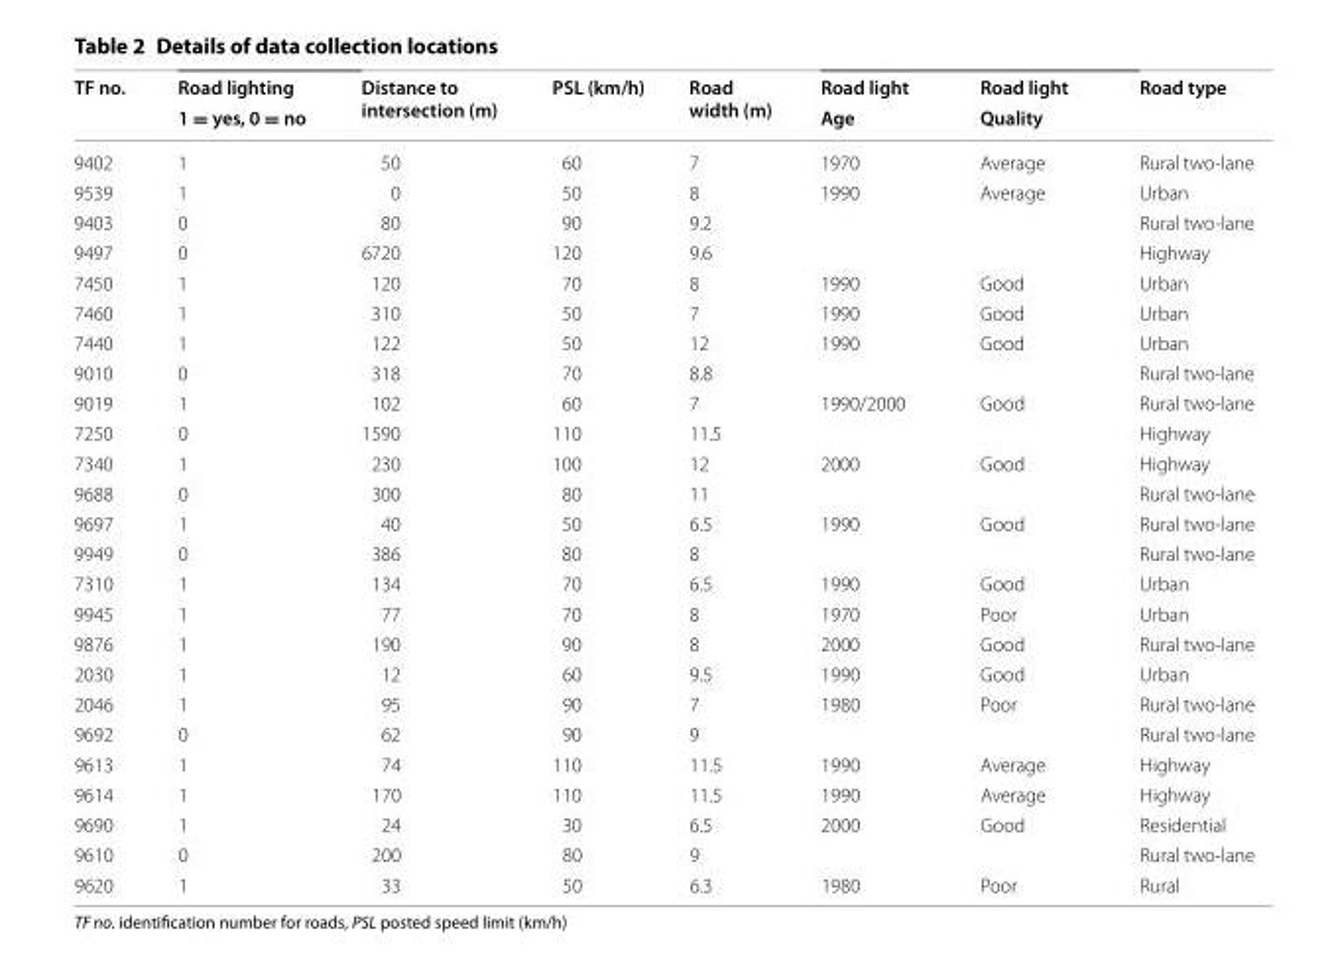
<table><thead><tr><td rowspan="2">TF no.</td><td rowspan="2">Road lighting 1 = yes, 0 = no</td><td rowspan="2">Distance to intersection (m)</td><td rowspan="2">PSL (km/h)</td><td rowspan="2">Road width (m)</td><td rowspan="2">Road light Age</td><td rowspan="2">Road light Quality</td><td rowspan="2">Road type</td></tr><tr></tr></thead><tbody><tr><td>9402</td><td>1</td><td>50</td><td>60</td><td>7</td><td>1970</td><td>Average</td><td>Rural two-lane</td></tr><tr><td>9539</td><td>1</td><td>0</td><td>50</td><td>8</td><td>1990</td><td>Average</td><td>Urban</td></tr><tr><td>9403</td><td>0</td><td>80</td><td>90</td><td>9.2</td><td></td><td></td><td>Rural two-lane</td></tr><tr><td>9497</td><td>0</td><td>6720</td><td>120</td><td>9.6</td><td></td><td></td><td>Highway</td></tr><tr><td>7450</td><td>1</td><td>120</td><td>70</td><td>8</td><td>1990</td><td>Good</td><td>Urban</td></tr><tr><td>7460</td><td>1</td><td>310</td><td>50</td><td>7</td><td>1990</td><td>Good</td><td>Urban</td></tr><tr><td>7440</td><td>1</td><td>122</td><td>50</td><td>12</td><td>1990</td><td>Good</td><td>Urban</td></tr><tr><td>9010</td><td>0</td><td>318</td><td>70</td><td>8.8</td><td></td><td></td><td>Rural two-lane</td></tr><tr><td>9019</td><td>1</td><td>102</td><td>60</td><td>7</td><td>1990/2000</td><td>Good</td><td>Rural two-lane</td></tr><tr><td>7250</td><td>0</td><td>1590</td><td>110</td><td>11.5</td><td></td><td></td><td>Highway</td></tr><tr><td>7340</td><td>1</td><td>230</td><td>100</td><td>12</td><td>2000</td><td>Good</td><td>Highway</td></tr><tr><td>9688</td><td>0</td><td>300</td><td>80</td><td>11</td><td></td><td></td><td>Rural two-lane</td></tr><tr><td>9697</td><td>1</td><td>40</td><td>50</td><td>6.5</td><td>1990</td><td>Good</td><td>Rural two-lane</td></tr><tr><td>9949</td><td>0</td><td>386</td><td>80</td><td>8</td><td></td><td></td><td>Rural two-lane</td></tr><tr><td>7310</td><td>1</td><td>134</td><td>70</td><td>6.5</td><td>1990</td><td>Good</td><td>Urban</td></tr><tr><td>9945</td><td>1</td><td>77</td><td>70</td><td>8</td><td>1970</td><td>Poor</td><td>Urban</td></tr><tr><td>9876</td><td>1</td><td>190</td><td>90</td><td>8</td><td>2000</td><td>Good</td><td>Rural two-lane</td></tr><tr><td>2030</td><td>1</td><td>12</td><td>60</td><td>9.5</td><td>1990</td><td>Good</td><td>Urban</td></tr><tr><td>2046</td><td>1</td><td>95</td><td>90</td><td>7</td><td>1980</td><td>Poor</td><td>Rural two-lane</td></tr><tr><td>9692</td><td>0</td><td>62</td><td>90</td><td>9</td><td></td><td></td><td>Rural two-lane</td></tr><tr><td>9613</td><td>1</td><td>74</td><td>110</td><td>11.5</td><td>1990</td><td>Average</td><td>Highway</td></tr><tr><td>9614</td><td>1</td><td>170</td><td>110</td><td>11.5</td><td>1990</td><td>Average</td><td>Highway</td></tr><tr><td>9690</td><td>1</td><td>24</td><td>30</td><td>6.5</td><td>2000</td><td>Good</td><td>Residential</td></tr><tr><td>9610</td><td>0</td><td>200</td><td>80</td><td>9</td><td></td><td></td><td>Rural two-lane</td></tr><tr><td>9620</td><td>1</td><td>33</td><td>50</td><td>6.3</td><td>1980</td><td>Poor</td><td>Rural</td></tr></tbody></table>